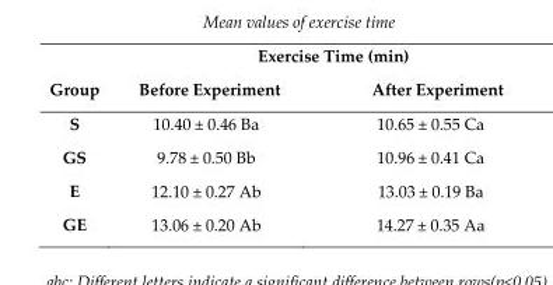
<table><thead><tr><td rowspan="2">Group</td><td colspan="2">Exercise Time (min)</td></tr><tr><td>Before Experiment</td><td>After Experiment</td></tr></thead><tbody><tr><td>S</td><td>10.40 ± 0.46 Ba</td><td>10.65 ± 0.55 Ca</td></tr><tr><td>GS</td><td>9.78 ± 0.50 Bb</td><td>10.96 ± 0.41 Ca</td></tr><tr><td>E</td><td>12.10 ± 0.27 Ab</td><td>13.03 ± 0.19 Ba</td></tr><tr><td>GE</td><td>13.06 ± 0.20 Ab</td><td>14.27 ± 0.35 Aa</td></tr></tbody></table>